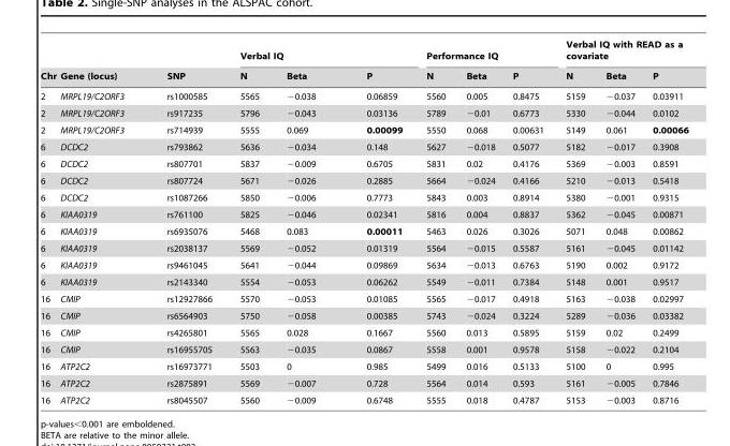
<table><thead><tr><td rowspan="2">Chr</td><td rowspan="2">Gene (locus)</td><td rowspan="2">SNP</td><td colspan="3">Verbal IQ</td><td colspan="3">Performance IQ</td><td colspan="3">Verbal IQ with READ as a covariate</td></tr><tr><td>N</td><td>Beta</td><td>P</td><td>N</td><td>Beta</td><td>P</td><td>N</td><td>Beta</td><td>P</td></tr></thead><tbody><tr><td>2</td><td>MRPL19/C2ORF3</td><td>rs1000585</td><td>5565</td><td>−0.038</td><td>0.06859</td><td>5560</td><td>0.005</td><td>0.8475</td><td>5159</td><td>−0.037</td><td>0.03911</td></tr><tr><td>2</td><td>MRPL19/C2ORF3</td><td>rs917235</td><td>5796</td><td>−0.043</td><td>0.03136</td><td>5789</td><td>−0.01</td><td>0.6773</td><td>5330</td><td>−0.044</td><td>0.0102</td></tr><tr><td>2</td><td>MRPL19/C2ORF3</td><td>rs714939</td><td>5555</td><td>0.069</td><td>0.00099</td><td>5550</td><td>0.068</td><td>0.00631</td><td>5149</td><td>0.061</td><td>0.00066</td></tr><tr><td>6</td><td>DCDC2</td><td>rs793862</td><td>5636</td><td>−0.034</td><td>0.148</td><td>5627</td><td>−0.018</td><td>0.5077</td><td>5182</td><td>−0.017</td><td>0.3908</td></tr><tr><td>6</td><td>DCDC2</td><td>rs807701</td><td>5837</td><td>−0.009</td><td>0.6705</td><td>5831</td><td>0.02</td><td>0.4176</td><td>5369</td><td>−0.003</td><td>0.8591</td></tr><tr><td>6</td><td>DCDC2</td><td>rs807724</td><td>5671</td><td>−0.026</td><td>0.2885</td><td>5664</td><td>−0.024</td><td>0.4166</td><td>5210</td><td>−0.013</td><td>0.5418</td></tr><tr><td>6</td><td>DCDC2</td><td>rs1087266</td><td>5850</td><td>−0.006</td><td>0.7773</td><td>5843</td><td>0.003</td><td>0.8914</td><td>5380</td><td>−0.001</td><td>0.9315</td></tr><tr><td>6</td><td>KIAA0319</td><td>rs761100</td><td>5825</td><td>−0.046</td><td>0.02341</td><td>5816</td><td>0.004</td><td>0.8837</td><td>5362</td><td>−0.045</td><td>0.00871</td></tr><tr><td>6</td><td>KIAA0319</td><td>rs6935076</td><td>5468</td><td>0.083</td><td>0.00011</td><td>5463</td><td>0.026</td><td>0.3026</td><td>5071</td><td>0.048</td><td>0.00862</td></tr><tr><td>6</td><td>KIAA0319</td><td>rs2038137</td><td>5569</td><td>−0.052</td><td>0.01319</td><td>5564</td><td>−0.015</td><td>0.5587</td><td>5161</td><td>−0.045</td><td>0.01142</td></tr><tr><td>6</td><td>KIAA0319</td><td>rs9461045</td><td>5641</td><td>−0.044</td><td>0.09869</td><td>5634</td><td>−0.013</td><td>0.6763</td><td>5190</td><td>0.002</td><td>0.9172</td></tr><tr><td>6</td><td>KIAA0319</td><td>rs2143340</td><td>5554</td><td>−0.053</td><td>0.06262</td><td>5549</td><td>−0.011</td><td>0.7384</td><td>5148</td><td>0.001</td><td>0.9517</td></tr><tr><td>16</td><td>CMIP</td><td>rs12927866</td><td>5570</td><td>−0.053</td><td>0.01085</td><td>5565</td><td>−0.017</td><td>0.4918</td><td>5163</td><td>−0.038</td><td>0.02997</td></tr><tr><td>16</td><td>CMIP</td><td>rs6564903</td><td>5750</td><td>−0.058</td><td>0.00385</td><td>5743</td><td>−0.024</td><td>0.3224</td><td>5289</td><td>−0.036</td><td>0.03382</td></tr><tr><td>16</td><td>CMIP</td><td>rs4265801</td><td>5565</td><td>0.028</td><td>0.1667</td><td>5560</td><td>0.013</td><td>0.5895</td><td>5159</td><td>0.02</td><td>0.2499</td></tr><tr><td>16</td><td>CMIP</td><td>rs16955705</td><td>5563</td><td>−0.035</td><td>0.0867</td><td>5558</td><td>0.001</td><td>0.9578</td><td>5158</td><td>−0.022</td><td>0.2104</td></tr><tr><td>16</td><td>ATP2C2</td><td>rs16973771</td><td>5503</td><td>0</td><td>0.985</td><td>5499</td><td>0.016</td><td>0.5133</td><td>5100</td><td>0</td><td>0.995</td></tr><tr><td>16</td><td>ATP2C2</td><td>rs2875891</td><td>5569</td><td>−0.007</td><td>0.728</td><td>5564</td><td>0.014</td><td>0.593</td><td>5161</td><td>−0.005</td><td>0.7846</td></tr><tr><td>16</td><td>ATP2C2</td><td>rs8045507</td><td>5560</td><td>−0.009</td><td>0.6748</td><td>5555</td><td>0.018</td><td>0.4787</td><td>5153</td><td>−0.003</td><td>0.8716</td></tr></tbody></table>